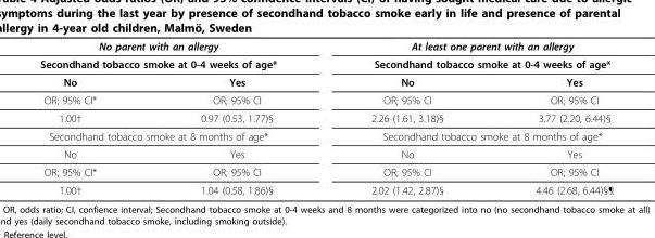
<table><thead><tr><td rowspan="2" colspan="2">No parent with an allergy Secondhand tobacco smoke at 0-4 weeks of age*</td><td rowspan="2" colspan="2">At least one parent with an allergy Secondhand tobacco smoke at 0-4 weeks of age*</td></tr><tr></tr><tr><td>No</td><td>Yes</td><td>No</td><td>Yes</td></tr></thead><tbody><tr><td>OR; 95% CI*</td><td>OR; 95% CI</td><td>OR; 95% CI</td><td>OR; 95% CI</td></tr><tr><td>1.00†</td><td>0.97 (0.53, 1.77)§</td><td>2.26 (1.61, 3.18)§</td><td>3.77 (2.20, 6.44)§</td></tr><tr><td colspan="2">Secondhand tobacco smoke at 8 months of age*</td><td colspan="2">Secondhand tobacco smoke at 8 months of age*</td></tr><tr><td>No</td><td>Yes</td><td>No</td><td>Yes</td></tr><tr><td>OR; 95% CI*</td><td>OR; 95% CI</td><td>OR; 95% CI</td><td>OR; 95% CI</td></tr><tr><td>1.00†</td><td>1.04 (0.58, 1.86)§</td><td>2.02 (1.42, 2.87)§</td><td>4.46 (2.68, 6.44)§¶</td></tr></tbody></table>